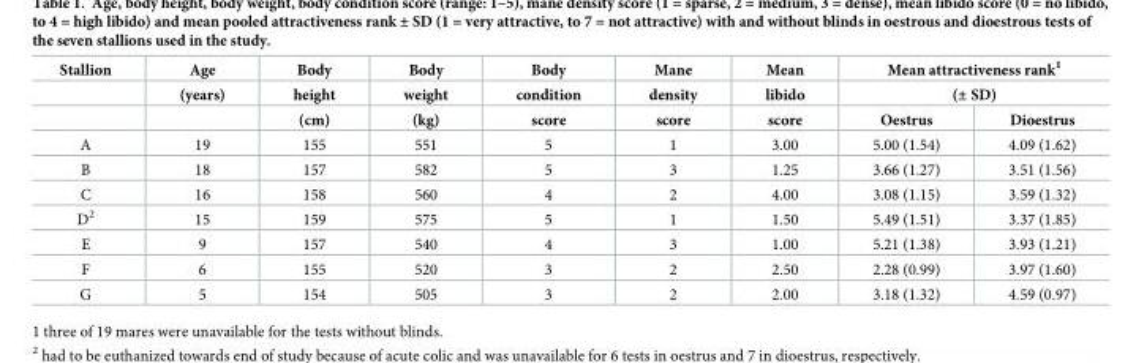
<table><thead><tr><td rowspan="3">Stallion</td><td rowspan="3">Age (years)</td><td rowspan="3">Body height (cm)</td><td rowspan="3">Body weight (kg)</td><td rowspan="3">Body condition score</td><td rowspan="3">Mane density score</td><td rowspan="3">Mean libido score</td><td rowspan="2" colspan="2">Mean attractiveness rank<sup>1</sup> (± SD)</td></tr><tr></tr><tr><td>Oestrus</td><td>Dioestrus</td></tr></thead><tbody><tr><td>A</td><td>19</td><td>155</td><td>551</td><td>5</td><td>1</td><td>3.00</td><td>5.00 (1.54)</td><td>4.09 (1.62)</td></tr><tr><td>B</td><td>18</td><td>157</td><td>582</td><td>5</td><td>3</td><td>1.25</td><td>3.66 (1.27)</td><td>3.51 (1.56)</td></tr><tr><td>C</td><td>16</td><td>158</td><td>560</td><td>4</td><td>2</td><td>4.00</td><td>3.08 (1.15)</td><td>3.59 (1.32)</td></tr><tr><td>D<sup>2</sup></td><td>15</td><td>159</td><td>575</td><td>5</td><td>1</td><td>1.50</td><td>5.49 (1.51)</td><td>3.37 (1.85)</td></tr><tr><td>E</td><td>9</td><td>157</td><td>540</td><td>4</td><td>3</td><td>1.00</td><td>5.21 (1.38)</td><td>3.93 (1.21)</td></tr><tr><td>F</td><td>6</td><td>155</td><td>520</td><td>3</td><td>2</td><td>2.50</td><td>2.28 (0.99)</td><td>3.97 (1.60)</td></tr><tr><td>G</td><td>5</td><td>154</td><td>505</td><td>3</td><td>2</td><td>2.00</td><td>3.18 (1.32)</td><td>4.59 (0.97)</td></tr></tbody></table>